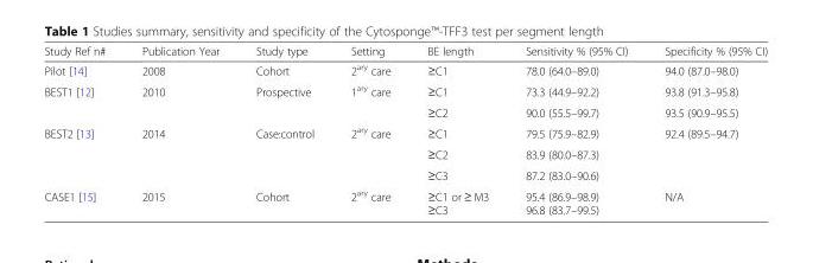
<table><thead><tr><td>Study Ref n#</td><td>Publication Year</td><td>Study type</td><td>Setting</td><td>BE length</td><td>Sensitivity % (95% CI)</td><td>Specificity % (95% CI)</td></tr></thead><tbody><tr><td>Pilot [14]</td><td>2008</td><td>Cohort</td><td>2<sup>ary</sup> care</td><td>≥C1</td><td>78.0 (64.0–89.0)</td><td>94.0 (87.0–98.0)</td></tr><tr><td rowspan="2">BEST1 [12]</td><td rowspan="2">2010</td><td rowspan="2">Prospective</td><td>1<sup>ary</sup> care</td><td>≥C1</td><td>73.3 (44.9–92.2)</td><td>93.8 (91.3–95.8)</td></tr><tr><td></td><td>≥C2</td><td>90.0 (55.5–99.7)</td><td>93.5 (90.9–95.5)</td></tr><tr><td rowspan="3">BEST2 [13]</td><td rowspan="3">2014</td><td rowspan="3">Case:control</td><td rowspan="3">2<sup>ary</sup> care</td><td>≥C1</td><td>79.5 (75.9–82.9)</td><td rowspan="3">92.4 (89.5–94.7)</td></tr><tr><td>≥C2</td><td>83.9 (80.0–87.3)</td></tr><tr><td>≥C3</td><td>87.2 (83.0–90.6)</td></tr><tr><td>CASE1 [15]</td><td>2015</td><td>Cohort</td><td>2<sup>ary</sup> care</td><td>≥C1 or ≥ M3 ≥C3</td><td>95.4 (86.9–98.9) 96.8 (83.7–99.5)</td><td>N/A</td></tr></tbody></table>